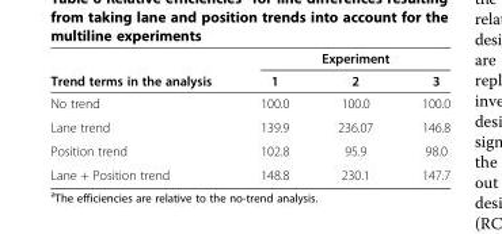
<table><thead><tr><td rowspan="2">Trend terms in the analysis</td><td colspan="3">Experiment</td></tr><tr><td>1</td><td>2</td><td>3</td></tr></thead><tbody><tr><td>No trend</td><td>100.0</td><td>100.0</td><td>100.0</td></tr><tr><td>Lane trend</td><td>139.9</td><td>236.07</td><td>146.8</td></tr><tr><td>Position trend</td><td>102.8</td><td>95.9</td><td>98.0</td></tr><tr><td>Lane + Position trend</td><td>148.8</td><td>230.1</td><td>147.7</td></tr></tbody></table>